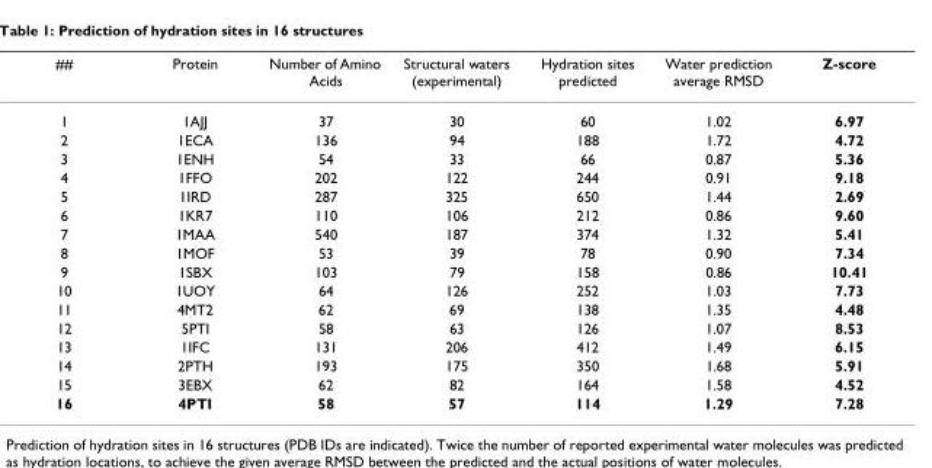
<table><thead><tr><td>##</td><td>Protein</td><td>Number of Amino Acids</td><td>Structural waters (experimental)</td><td>Hydration sites predicted</td><td>Water prediction average RMSD</td><td>Z-score</td></tr></thead><tbody><tr><td>1</td><td>1AJJ</td><td>37</td><td>30</td><td>60</td><td>1.02</td><td>6.97</td></tr><tr><td>2</td><td>1ECA</td><td>136</td><td>94</td><td>188</td><td>1.72</td><td>4.72</td></tr><tr><td>3</td><td>1ENH</td><td>54</td><td>33</td><td>66</td><td>0.87</td><td>5.36</td></tr><tr><td>4</td><td>1FFO</td><td>202</td><td>122</td><td>244</td><td>0.91</td><td>9.18</td></tr><tr><td>5</td><td>1IRD</td><td>287</td><td>325</td><td>650</td><td>1.44</td><td>2.69</td></tr><tr><td>6</td><td>1KR7</td><td>110</td><td>106</td><td>212</td><td>0.86</td><td>9.60</td></tr><tr><td>7</td><td>1MAA</td><td>540</td><td>187</td><td>374</td><td>1.32</td><td>5.41</td></tr><tr><td>8</td><td>1MOF</td><td>53</td><td>39</td><td>78</td><td>0.90</td><td>7.34</td></tr><tr><td>9</td><td>1SBX</td><td>103</td><td>79</td><td>158</td><td>0.86</td><td>10.41</td></tr><tr><td>10</td><td>1UOY</td><td>64</td><td>126</td><td>252</td><td>1.03</td><td>7.73</td></tr><tr><td>11</td><td>4MT2</td><td>62</td><td>69</td><td>138</td><td>1.35</td><td>4.48</td></tr><tr><td>12</td><td>5PTI</td><td>58</td><td>63</td><td>126</td><td>1.07</td><td>8.53</td></tr><tr><td>13</td><td>1IFC</td><td>131</td><td>206</td><td>412</td><td>1.49</td><td>6.15</td></tr><tr><td>14</td><td>2PTH</td><td>193</td><td>175</td><td>350</td><td>1.68</td><td>5.91</td></tr><tr><td>15</td><td>3EBX</td><td>62</td><td>82</td><td>164</td><td>1.58</td><td>4.52</td></tr><tr><td>16</td><td>4PTI</td><td>58</td><td>57</td><td>114</td><td>1.29</td><td>7.28</td></tr></tbody></table>